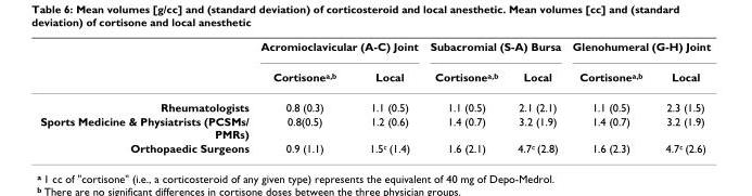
<table><thead><tr><td rowspan="2"></td><td colspan="2">Acromioclavicular (A-C) Joint</td><td colspan="2">Subacromial (S-A) Bursa</td><td colspan="2">Glenohumeral (G-H) Joint</td></tr><tr><td>Cortisone<sup>a,b</sup></td><td>Local</td><td>Cortisone<sup>a,b</sup></td><td>Local</td><td>Cortisone<sup>a,b</sup></td><td>Local</td></tr></thead><tbody><tr><td>Rheumatologists</td><td>0.8 (0.3)</td><td>1.1 (0.5)</td><td>1.1 (0.5)</td><td>2.1 (2.1)</td><td>1.1 (0.5)</td><td>2.3 (1.5)</td></tr><tr><td>Sports Medicine &amp; Physiatrists (PCSMs/ PMRs)</td><td>0.8(0.5)</td><td>1.2 (0.6)</td><td>1.4 (0.7)</td><td>3.2 (1.9)</td><td>1.4 (0.7)</td><td>3.2 (1.9)</td></tr><tr><td>Orthopaedic Surgeons</td><td>0.9 (1.1)</td><td>1.5<sup>c</sup> (1.4)</td><td>1.6 (2.1)</td><td>4.7<sup>c</sup> (2.8)</td><td>1.6 (2.3)</td><td>4.7<sup>c</sup> (2.6)</td></tr></tbody></table>